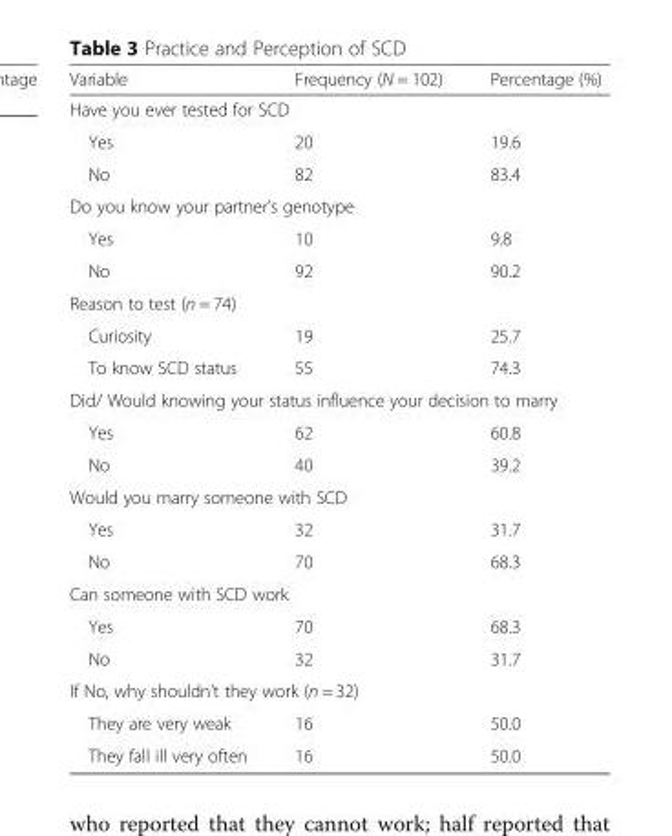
<table><thead><tr><td>Variable</td><td>Frequency (N = 102)</td><td>Percentage (%)</td></tr></thead><tbody><tr><td colspan="3">Have you ever tested for SCD</td></tr><tr><td>Yes</td><td>20</td><td>19.6</td></tr><tr><td>No</td><td>82</td><td>83.4</td></tr><tr><td colspan="3">Do you know your partner’s genotype</td></tr><tr><td>Yes</td><td>10</td><td>9.8</td></tr><tr><td>No</td><td>92</td><td>90.2</td></tr><tr><td colspan="3">Reason to test (n = 74)</td></tr><tr><td>Curiosity</td><td>19</td><td>25.7</td></tr><tr><td>To know SCD status</td><td>55</td><td>74.3</td></tr><tr><td colspan="3">Did/ Would knowing your status influence your decision to marry</td></tr><tr><td>Yes</td><td>62</td><td>60.8</td></tr><tr><td>No</td><td>40</td><td>39.2</td></tr><tr><td colspan="3">Would you marry someone with SCD</td></tr><tr><td>Yes</td><td>32</td><td>31.7</td></tr><tr><td>No</td><td>70</td><td>68.3</td></tr><tr><td colspan="3">Can someone with SCD work</td></tr><tr><td>Yes</td><td>70</td><td>68.3</td></tr><tr><td>No</td><td>32</td><td>31.7</td></tr><tr><td colspan="3">If No, why shouldn’t they work (n = 32)</td></tr><tr><td>They are very weak</td><td>16</td><td>50.0</td></tr><tr><td>They fall ill very often</td><td>16</td><td>50.0</td></tr></tbody></table>